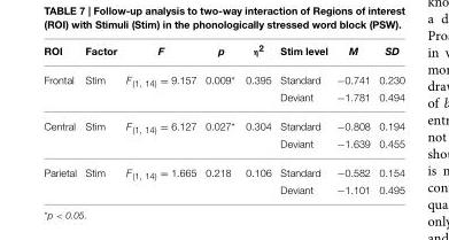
<table><thead><tr><td>ROI</td><td>Factor</td><td>F</td><td>p</td><td>η<sup>2</sup></td><td>Stim level</td><td>M</td><td>SD</td></tr></thead><tbody><tr><td rowspan="2">Frontal</td><td>Stim</td><td>F<sub>(1, 14)</sub> = 9.157</td><td>0.009*</td><td>0.395</td><td>Standard</td><td>−0.741</td><td>0.230</td></tr><tr><td></td><td></td><td></td><td></td><td>Deviant</td><td>−1.781</td><td>0.494</td></tr><tr><td rowspan="2">Central</td><td>Stim</td><td>F<sub>(1, 14)</sub> = 6.127</td><td>0.027*</td><td>0.304</td><td>Standard</td><td>−0.808</td><td>0.194</td></tr><tr><td></td><td></td><td></td><td></td><td>Deviant</td><td>−1.639</td><td>0.455</td></tr><tr><td rowspan="2">Parietal</td><td>Stim</td><td>F<sub>(1, 14)</sub> = 1.665</td><td>0.218</td><td>0.106</td><td>Standard</td><td>−0.582</td><td>0.154</td></tr><tr><td></td><td></td><td></td><td></td><td>Deviant</td><td>−1.101</td><td>0.495</td></tr></tbody></table>